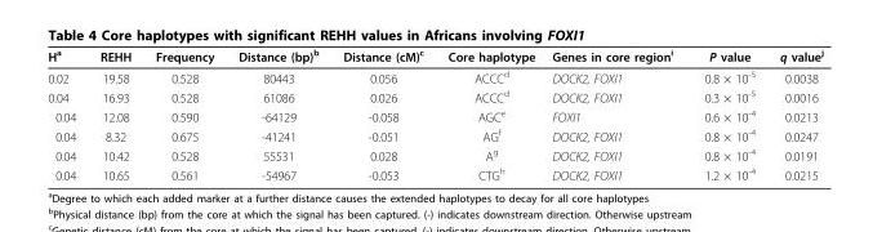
<table><thead><tr><td>H<sup>a</sup></td><td>REHH</td><td>Frequency</td><td>Distance (bp)<sup>b</sup></td><td>Distance (cM)<sup>c</sup></td><td>Core haplotype</td><td>Genes in core region<sup>i</sup></td><td>P value</td><td>q value<sup>j</sup></td></tr></thead><tbody><tr><td>0.02</td><td>19.58</td><td>0.528</td><td>80443</td><td>0.056</td><td>ACCC<sup>d</sup></td><td>DOCK2, FOXI1</td><td>0.8 × 10<sup>-5</sup></td><td>0.0038</td></tr><tr><td>0.04</td><td>16.93</td><td>0.528</td><td>61086</td><td>0.026</td><td>ACCC<sup>d</sup></td><td>DOCK2, FOXI1</td><td>0.3 × 10<sup>-5</sup></td><td>0.0016</td></tr><tr><td>0.04</td><td>12.08</td><td>0.590</td><td>-64129</td><td>-0.058</td><td>AGC<sup>e</sup></td><td>FOXI1</td><td>0.6 × 10<sup>-4</sup></td><td>0.0213</td></tr><tr><td>0.04</td><td>8.32</td><td>0.675</td><td>-41241</td><td>-0.051</td><td>AG<sup>f</sup></td><td>DOCK2, FOXI1</td><td>0.8 × 10<sup>-4</sup></td><td>0.0247</td></tr><tr><td>0.04</td><td>10.42</td><td>0.528</td><td>55531</td><td>0.028</td><td>A<sup>g</sup></td><td>DOCK2, FOXI1</td><td>0.8 × 10<sup>-4</sup></td><td>0.0191</td></tr><tr><td>0.04</td><td>10.65</td><td>0.561</td><td>-54967</td><td>-0.053</td><td>CTG<sup>h</sup></td><td>DOCK2, FOXI1</td><td>1.2 × 10<sup>-4</sup></td><td>0.0215</td></tr></tbody></table>